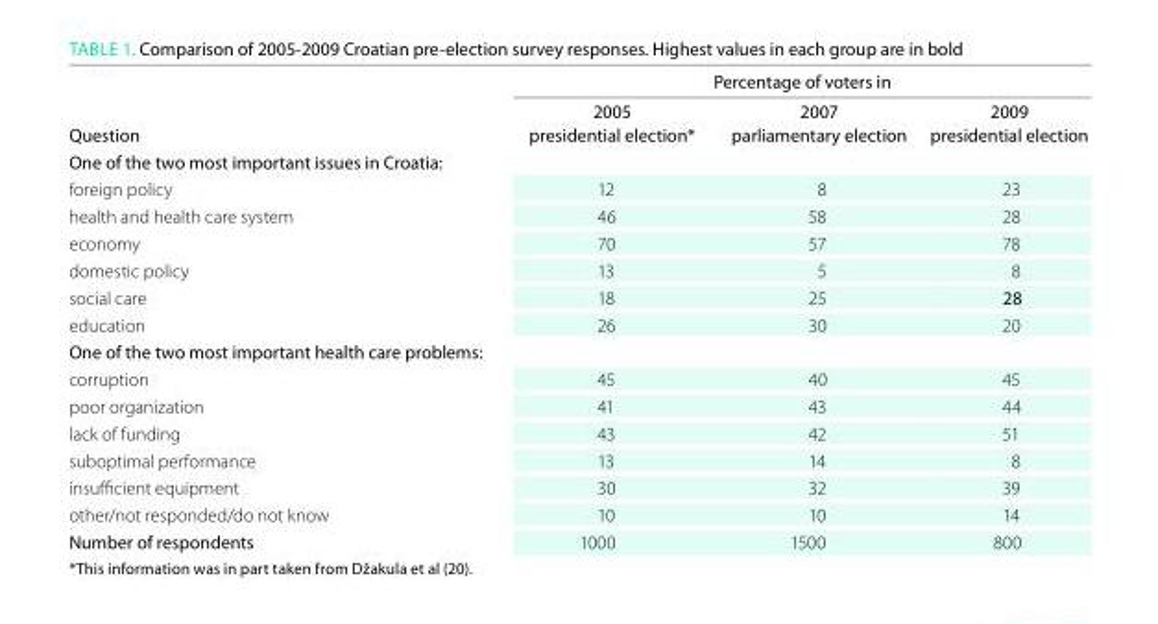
<table><thead><tr><td rowspan="2">Question</td><td colspan="3">Percentage of voters in</td></tr><tr><td>2005 presidential election*</td><td>2007 parliamentary election</td><td>2009 presidential election</td></tr></thead><tbody><tr><td colspan="4">one of the two most important issues in Croatia:</td></tr><tr><td>foreign policy</td><td>12</td><td>8</td><td>23</td></tr><tr><td>health and health care system</td><td>46</td><td>58</td><td>28</td></tr><tr><td>economy</td><td>70</td><td>57</td><td>78</td></tr><tr><td>domestic policy</td><td>13</td><td>5</td><td>8</td></tr><tr><td>social care</td><td>18</td><td>25</td><td>28</td></tr><tr><td>education</td><td>26</td><td>30</td><td>20</td></tr><tr><td colspan="4">one of the two most important health care problems:</td></tr><tr><td>corruption</td><td>45</td><td>40</td><td>45</td></tr><tr><td>poor organization</td><td>41</td><td>43</td><td>44</td></tr><tr><td>lack of funding</td><td>43</td><td>42</td><td>51</td></tr><tr><td>suboptimal performance</td><td>13</td><td>14</td><td>8</td></tr><tr><td>insufficient equipment</td><td>30</td><td>32</td><td>39</td></tr><tr><td>other/not responded/do not know</td><td>10</td><td>10</td><td>14</td></tr><tr><td>Number of respondents</td><td>1000</td><td>1500</td><td>800</td></tr></tbody></table>